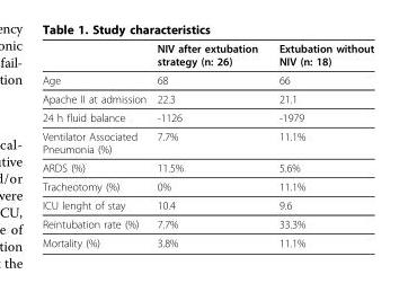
<table><thead><tr><td></td><td>NIV after extubation strategy (n: 26)</td><td>Extubation without NIV (n: 18)</td></tr></thead><tbody><tr><td>Age</td><td>68</td><td>66</td></tr><tr><td>Apache II at admission</td><td>22.3</td><td>21.1</td></tr><tr><td>24 h fluid balance</td><td>-1126</td><td>-1979</td></tr><tr><td>Ventilator Associated Pneumonia (%)</td><td>7.7%</td><td>11.1%</td></tr><tr><td>ARDS (%)</td><td>11.5%</td><td>5.6%</td></tr><tr><td>Tracheotomy (%)</td><td>0%</td><td>11.1%</td></tr><tr><td>ICU lenght of stay</td><td>10.4</td><td>9.6</td></tr><tr><td>Reintubation rate (%)</td><td>7.7%</td><td>33.3%</td></tr><tr><td>Mortality (%)</td><td>3.8%</td><td>11.1%</td></tr></tbody></table>